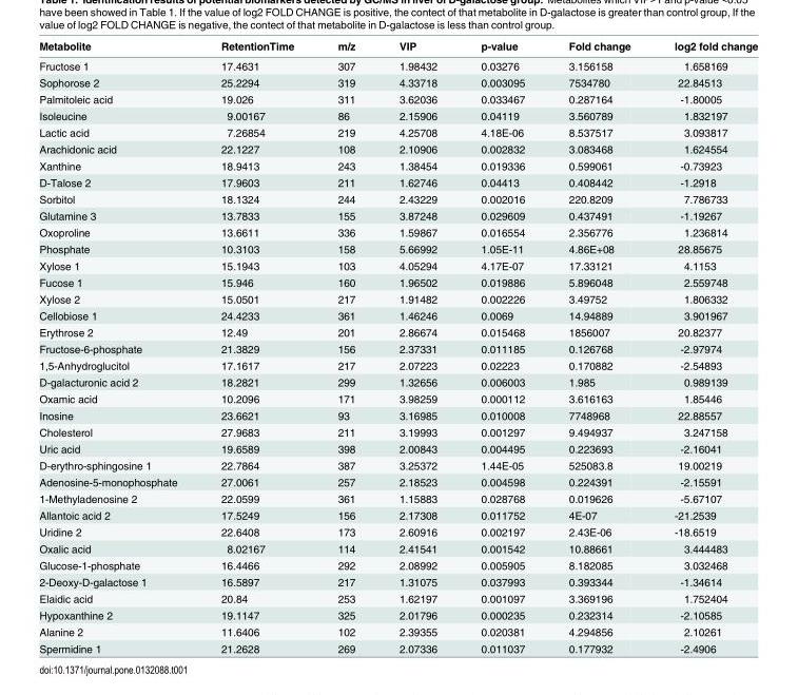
<table><thead><tr><td>Metabolite</td><td>RetentionTime</td><td>m/z</td><td>VIP</td><td>p-value</td><td>Fold change</td><td>log2 fold change</td></tr></thead><tbody><tr><td>Fructose 1</td><td>17.4631</td><td>307</td><td>1.98432</td><td>0.03276</td><td>3.156158</td><td>1.658169</td></tr><tr><td>Sophorose 2</td><td>25.2294</td><td>319</td><td>4.33718</td><td>0.003095</td><td>7534780</td><td>22.84513</td></tr><tr><td>Palmitoleic acid</td><td>19.026</td><td>311</td><td>3.62036</td><td>0.033467</td><td>0.287164</td><td>-1.80005</td></tr><tr><td>Isoleucine</td><td>9.00167</td><td>86</td><td>2.15906</td><td>0.04119</td><td>3.560789</td><td>1.832197</td></tr><tr><td>Lactic acid</td><td>7.26854</td><td>219</td><td>4.25708</td><td>4.18E-06</td><td>8.537517</td><td>3.093817</td></tr><tr><td>Arachidonic acid</td><td>22.1227</td><td>108</td><td>2.10906</td><td>0.002832</td><td>3.083468</td><td>1.624554</td></tr><tr><td>Xanthine</td><td>18.9413</td><td>243</td><td>1.38454</td><td>0.019336</td><td>0.599061</td><td>-0.73923</td></tr><tr><td>D-Talose 2</td><td>17.9603</td><td>211</td><td>1.62746</td><td>0.04413</td><td>0.408442</td><td>-1.2918</td></tr><tr><td>Sorbitol</td><td>18.1324</td><td>244</td><td>2.43229</td><td>0.002016</td><td>220.8209</td><td>7.786733</td></tr><tr><td>Glutamine 3</td><td>13.7833</td><td>155</td><td>3.87248</td><td>0.029609</td><td>0.437491</td><td>-1.19267</td></tr><tr><td>Oxoproline</td><td>13.6611</td><td>336</td><td>1.59867</td><td>0.016554</td><td>2.356776</td><td>1.236814</td></tr><tr><td>Phosphate</td><td>10.3103</td><td>158</td><td>5.66992</td><td>1.05E-11</td><td>4.86E+08</td><td>28.85675</td></tr><tr><td>Xylose 1</td><td>15.1943</td><td>103</td><td>4.05294</td><td>4.17E-07</td><td>17.33121</td><td>4.1153</td></tr><tr><td>Fucose 1</td><td>15.946</td><td>160</td><td>1.96502</td><td>0.019886</td><td>5.896048</td><td>2.559748</td></tr><tr><td>Xylose 2</td><td>15.0501</td><td>217</td><td>1.91482</td><td>0.002226</td><td>3.49752</td><td>1.806332</td></tr><tr><td>Cellobiose 1</td><td>24.4233</td><td>361</td><td>1.46246</td><td>0.0069</td><td>14.94889</td><td>3.901967</td></tr><tr><td>Erythrose 2</td><td>12.49</td><td>201</td><td>2.86674</td><td>0.015468</td><td>1856007</td><td>20.82377</td></tr><tr><td>Fructose-6-phosphate</td><td>21.3829</td><td>156</td><td>2.37331</td><td>0.011185</td><td>0.126768</td><td>-2.97974</td></tr><tr><td>1,5-Anhydroglucitol</td><td>17.1617</td><td>217</td><td>2.07223</td><td>0.02223</td><td>0.170882</td><td>-2.54893</td></tr><tr><td>D-galacturonic acid 2</td><td>18.2821</td><td>299</td><td>1.32656</td><td>0.006003</td><td>1.985</td><td>0.989139</td></tr><tr><td>Oxamic acid</td><td>10.2096</td><td>171</td><td>3.98259</td><td>0.000112</td><td>3.616163</td><td>1.85446</td></tr><tr><td>Inosine</td><td>23.6621</td><td>93</td><td>3.16985</td><td>0.010008</td><td>7748968</td><td>22.88557</td></tr><tr><td>Cholesterol</td><td>27.9683</td><td>211</td><td>3.19993</td><td>0.001297</td><td>9.494937</td><td>3.247158</td></tr><tr><td>Uric acid</td><td>19.6589</td><td>398</td><td>2.00843</td><td>0.004495</td><td>0.223693</td><td>-2.16041</td></tr><tr><td>D-erythro-sphingosine 1</td><td>22.7864</td><td>387</td><td>3.25372</td><td>1.44E-05</td><td>525083.8</td><td>19.00219</td></tr><tr><td>Adenosine-5-monophosphate</td><td>27.0061</td><td>257</td><td>2.18523</td><td>0.004598</td><td>0.224391</td><td>-2.15591</td></tr><tr><td>1-Methyladenosine 2</td><td>22.0599</td><td>361</td><td>1.15883</td><td>0.028768</td><td>0.019626</td><td>-5.67107</td></tr><tr><td>Allantoic acid 2</td><td>17.5249</td><td>156</td><td>2.17308</td><td>0.011752</td><td>4E-07</td><td>-21.2539</td></tr><tr><td>Uridine 2</td><td>22.6408</td><td>173</td><td>2.60916</td><td>0.002197</td><td>2.43E-06</td><td>-18.6519</td></tr><tr><td>Oxalic acid</td><td>8.02167</td><td>114</td><td>2.41541</td><td>0.001542</td><td>10.88661</td><td>3.444483</td></tr><tr><td>Glucose-1-phosphate</td><td>16.4466</td><td>292</td><td>2.08992</td><td>0.005905</td><td>8.182085</td><td>3.032468</td></tr><tr><td>2-Deoxy-D-galactose 1</td><td>16.5897</td><td>217</td><td>1.31075</td><td>0.037993</td><td>0.393344</td><td>-1.34614</td></tr><tr><td>Elaidic acid</td><td>20.84</td><td>253</td><td>1.62197</td><td>0.001097</td><td>3.369196</td><td>1.752404</td></tr><tr><td>Hypoxanthine 2</td><td>19.1147</td><td>325</td><td>2.01796</td><td>0.000235</td><td>0.232314</td><td>-2.10585</td></tr><tr><td>Alanine 2</td><td>11.6406</td><td>102</td><td>2.39355</td><td>0.020381</td><td>4.294856</td><td>2.10261</td></tr><tr><td>Spermidine 1</td><td>21.2628</td><td>269</td><td>2.07336</td><td>0.011037</td><td>0.177932</td><td>-2.4906</td></tr></tbody></table>